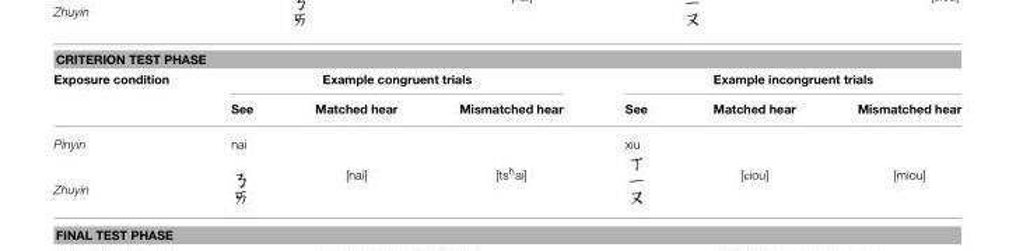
<table><thead><tr><td colspan="7">CRITERION TEST PHASE</td></tr><tr><td rowspan="2">Exposure condition</td><td colspan="3">Example congruent trials</td><td colspan="3">Example incongruent trials</td></tr><tr><td>See</td><td>Matched hear</td><td>Mismatched hear</td><td>See</td><td>Matched hear</td><td>Mismatched hear</td></tr></thead><tbody><tr><td>Pinyin</td><td>nai</td><td rowspan="2">[nai]</td><td rowspan="2">[ts<sup>h</sup>ai]</td><td>xiu</td><td rowspan="2">[Ciou]</td><td rowspan="2">[miou]</td></tr><tr><td>Zhuyin</td><td></td><td></td></tr></tbody></table>